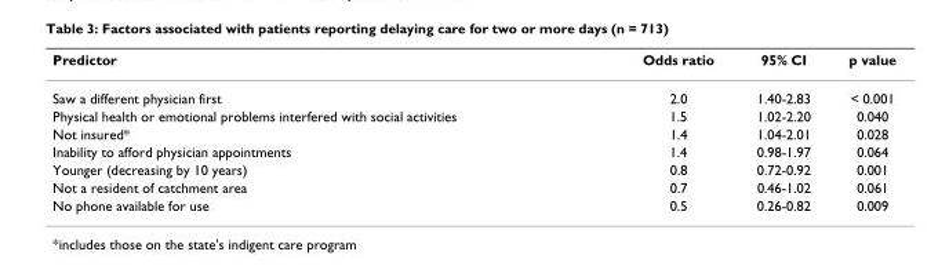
<table><thead><tr><td>Predictor</td><td>Odds ratio</td><td>95% CI</td><td>p value</td></tr></thead><tbody><tr><td>Saw a different physician first</td><td>2.0</td><td>1.40-2.83</td><td>&lt; 0.001</td></tr><tr><td>Physical health or emotional problems interfered with social activities</td><td>1.5</td><td>1.02-2.20</td><td>0.040</td></tr><tr><td>Not insured*</td><td>1.4</td><td>1.04-2.01</td><td>0.028</td></tr><tr><td>Inability to afford physician appointments</td><td>1.4</td><td>0.98-1.97</td><td>0.064</td></tr><tr><td>Younger (decreasing by 10 years)</td><td>0.8</td><td>0.72-0.92</td><td>0.001</td></tr><tr><td>Not a resident of catchment area</td><td>0.7</td><td>0.46-1.02</td><td>0.061</td></tr><tr><td>No phone available for use</td><td>0.5</td><td>0.26-0.82</td><td>0.009</td></tr></tbody></table>